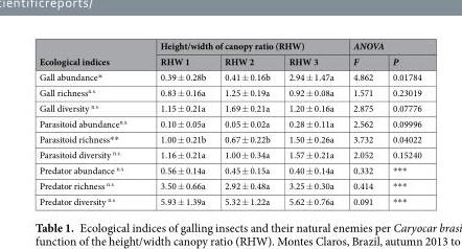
<table><thead><tr><td rowspan="2">Ecological indices</td><td colspan="3">Height/width of canopy ratio (RHW)</td><td colspan="2">ANOVA</td></tr><tr><td>RHW 1</td><td>RHW 2</td><td>RHW 3</td><td>F</td><td>P</td></tr></thead><tbody><tr><td>Gall abundance*</td><td>0.39 ± 0.28b</td><td>0.41 ± 0.16b</td><td>2.94 ± 1.47a</td><td>4.862</td><td>0.01784</td></tr><tr><td>Gall richness<sup>n.s.</sup></td><td>0.83 ± 0.16a</td><td>1.25 ± 0.19a</td><td>0.92 ± 0.08a</td><td>1.571</td><td>0.23019</td></tr><tr><td>Gall diversity <sup>n.s.</sup></td><td>1.15 ± 0.21a</td><td>1.69 ± 0.21a</td><td>1.20 ± 0.16a</td><td>2.875</td><td>0.07776</td></tr><tr><td>Parasitoid abundance<sup>n.s.</sup></td><td>0.10 ± 0.05a</td><td>0.05 ± 0.02a</td><td>0.28 ± 0.11a</td><td>2.562</td><td>0.09996</td></tr><tr><td>Parasitoid richness**</td><td>1.00 ± 0.21b</td><td>0.67 ± 0.22b</td><td>1.50 ± 0.26a</td><td>3.732</td><td>0.04022</td></tr><tr><td>Parasitoid diversity <sup>n.s.</sup></td><td>1.16 ± 0.21a</td><td>1.00 ± 0.34a</td><td>1.57 ± 0.21a</td><td>2.052</td><td>0.15240</td></tr><tr><td>Predator abundance <sup>n.s.</sup></td><td>0.56 ± 0.14a</td><td>0.45 ± 0.15a</td><td>0.40 ± 0.14a</td><td>0.332</td><td>***</td></tr><tr><td>Predator richness <sup>n.s.</sup></td><td>3.50 ± 0.66a</td><td>2.92 ± 0.48a</td><td>3.25 ± 0.30a</td><td>0.414</td><td>***</td></tr><tr><td>Predator diversity <sup>n.s.</sup></td><td>5.93 ± 1.39a</td><td>5.32 ± 1.22a</td><td>5.62 ± 0.76a</td><td>0.091</td><td>***</td></tr></tbody></table>